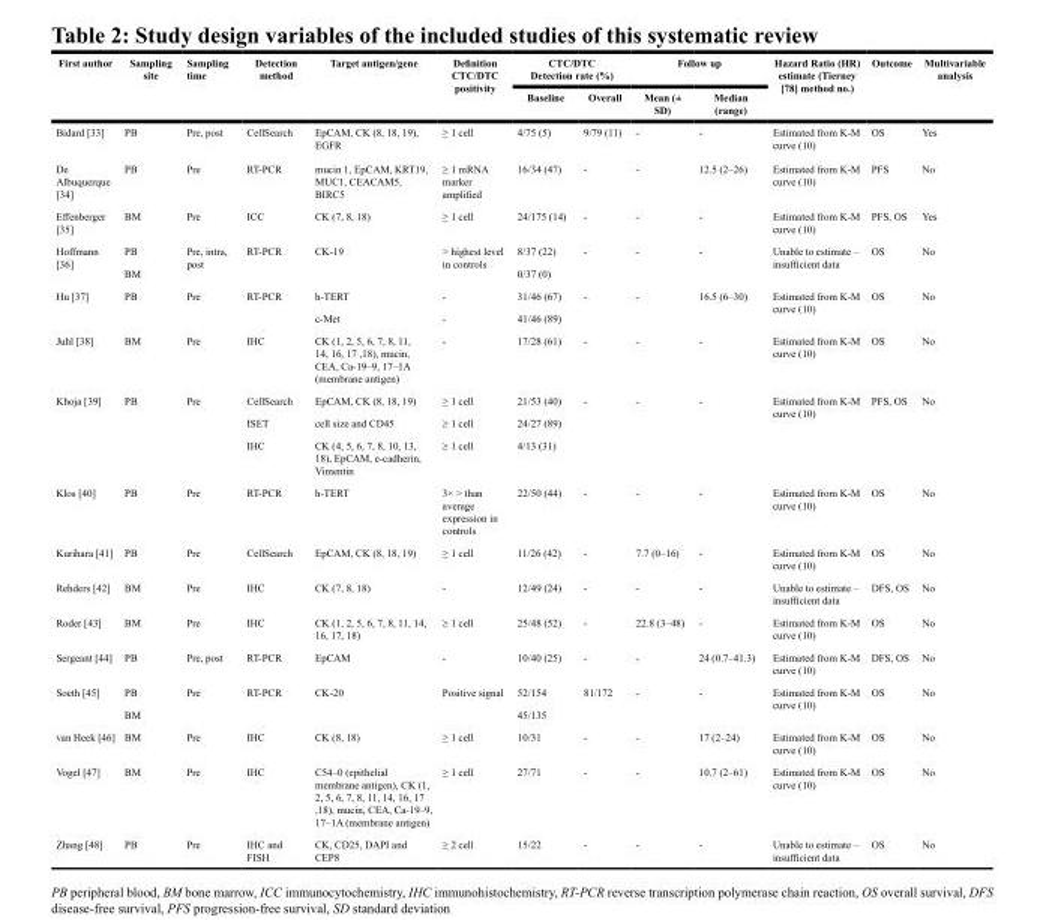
<table><thead><tr><td rowspan="2">First author</td><td rowspan="2">Sampling site</td><td rowspan="2">Sampling time</td><td rowspan="2">Detection method</td><td rowspan="2">Target antigen/gene</td><td rowspan="2">Definition CTC/DTC positivity</td><td colspan="2">CTC/DTC Detection rate (%)</td><td colspan="2">Follow up</td><td rowspan="2">Hazard Ratio (HR) estimate (Tierney [78] method no.)</td><td rowspan="2">Outcome</td><td rowspan="2">Multivariable analysis</td></tr><tr><td>Baseline</td><td>Overall</td><td>Mean (± SD)</td><td>Median (range)</td></tr></thead><tbody><tr><td>Bidard [33]</td><td>PB</td><td>Pre, post</td><td>CellSearch</td><td>EpCAM, CK (8, 18, 19), EGFR</td><td>≥ 1 cell</td><td>4/75 (5)</td><td>9/79 (11)</td><td>-</td><td>-</td><td>Estimated from K-M curve (10)</td><td>OS</td><td>Yes</td></tr><tr><td>De Albuquerque [34]</td><td>PB</td><td>Pre</td><td>RT-PCR</td><td>mucin 1, EpCAM, KRT19, MUC1, CEACAM5, BIRC5</td><td>≥ 1 mRNA marker amplified</td><td>16/34 (47)</td><td>-</td><td>-</td><td>12.5 (2–26)</td><td>Estimated from K-M curve (10)</td><td>PFS</td><td>No</td></tr><tr><td>Effenberger [35]</td><td>BM</td><td>Pre</td><td>ICC</td><td>CK (7, 8, 18)</td><td>≥ 1 cell</td><td>24/175 (14)</td><td>-</td><td>-</td><td>-</td><td>Estimated from K-M curve (10)</td><td>PFS, OS</td><td>Yes</td></tr><tr><td rowspan="2">Hoffmann [36]</td><td>PB</td><td rowspan="2">Pre, intra, post</td><td rowspan="2">RT-PCR</td><td rowspan="2">CK-19</td><td rowspan="2">&gt; highest level in controls</td><td>8/37 (22)</td><td rowspan="2">-</td><td rowspan="2">-</td><td rowspan="2">-</td><td rowspan="2">Unable to estimate – insufficient data</td><td rowspan="2">OS</td><td rowspan="2">No</td></tr><tr><td>BM</td><td>0/37 (0)</td></tr><tr><td rowspan="2">Hu [37]</td><td rowspan="2">PB</td><td rowspan="2">Pre</td><td rowspan="2">RT-PCR</td><td>h-TERT</td><td>-</td><td>31/46 (67)</td><td rowspan="2">-</td><td rowspan="2">-</td><td rowspan="2">16.5 (6–30)</td><td rowspan="2">Estimated from K-M curve (10)</td><td rowspan="2">OS</td><td rowspan="2">No</td></tr><tr><td>c-Met</td><td>-</td><td>41/46 (89)</td></tr><tr><td>Juhl [38]</td><td>BM</td><td>Pre</td><td>IHC</td><td>CK (1, 2, 5, 6, 7, 8, 11, 14, 16, 17 ,18), mucin, CEA, Ca-19–9, 17–1A (membrane antigen)</td><td>-</td><td>17/28 (61)</td><td>-</td><td>-</td><td>-</td><td>Estimated from K-M curve (10)</td><td>OS</td><td>No</td></tr><tr><td rowspan="3">Khoja [39]</td><td rowspan="3">PB</td><td rowspan="3">Pre</td><td>CellSearch</td><td>EpCAM, CK (8, 18, 19)</td><td>≥ 1 cell</td><td>21/53 (40)</td><td rowspan="3">-</td><td rowspan="3">-</td><td rowspan="3">-</td><td rowspan="3">Estimated from K-M curve (10)</td><td rowspan="3">PFS, OS</td><td rowspan="3">No</td></tr><tr><td>ISET</td><td>cell size and CD45</td><td>≥ 1 cell</td><td>24/27 (89)</td></tr><tr><td>IHC</td><td>CK (4, 5, 6, 7, 8, 10, 13, 18), EpCAM, e-cadherin, Vimentin</td><td>≥ 1 cell</td><td>4/13 (31)</td></tr><tr><td>Klos [40]</td><td>PB</td><td>Pre</td><td>RT-PCR</td><td>h-TERT</td><td>3× &gt; than average expression in controls</td><td>22/50 (44)</td><td>-</td><td>-</td><td>-</td><td>Estimated from K-M curve (10)</td><td>OS</td><td>No</td></tr><tr><td>Kurihara [41]</td><td>PB</td><td>Pre</td><td>CellSearch</td><td>EpCAM, CK (8, 18, 19)</td><td>≥ 1 cell</td><td>11/26 (42)</td><td>-</td><td>7.7 (0–16)</td><td>-</td><td>Estimated from K-M curve (10)</td><td>OS</td><td>No</td></tr><tr><td>Rehders [42]</td><td>BM</td><td>Pre</td><td>IHC</td><td>CK (7, 8, 18)</td><td>-</td><td>12/49 (24)</td><td>-</td><td>-</td><td>-</td><td>Unable to estimate – insufficient data</td><td>DFS, OS</td><td>No</td></tr><tr><td>Roder [43]</td><td>BM</td><td>Pre</td><td>IHC</td><td>CK (1, 2, 5, 6, 7, 8, 11, 14, 16, 17, 18)</td><td>≥ 1 cell</td><td>25/48 (52)</td><td>-</td><td>22.8 (3–48)</td><td>-</td><td>Estimated from K-M curve (10)</td><td>OS</td><td>No</td></tr><tr><td>Sergeant [44]</td><td>PB</td><td>Pre, post</td><td>RT-PCR</td><td>EpCAM</td><td>-</td><td>10/40 (25)</td><td>-</td><td>-</td><td>24 (0.7–41.3)</td><td>Estimated from K-M curve (10)</td><td>DFS, OS</td><td>No</td></tr><tr><td rowspan="2">Soeth [45]</td><td>PB</td><td rowspan="2">Pre</td><td rowspan="2">RT-PCR</td><td rowspan="2">CK-20</td><td rowspan="2">Positive signal</td><td>52/154</td><td rowspan="2">81/172</td><td rowspan="2">-</td><td rowspan="2">-</td><td rowspan="2">Estimated from K-M curve (10)</td><td rowspan="2">OS</td><td rowspan="2">No</td></tr><tr><td>BM</td><td>45/135</td></tr><tr><td>van Heek [46]</td><td>BM</td><td>Pre</td><td>IHC</td><td>CK (8, 18)</td><td>≥ 1 cell</td><td>10/31</td><td>-</td><td>-</td><td>17 (2–24)</td><td>Estimated from K-M curve (10)</td><td>OS</td><td>No</td></tr><tr><td>Vogel [47]</td><td>BM</td><td>Pre</td><td>IHC</td><td>C54–0 (epithelial membrane antigen), CK (1, 2, 5, 6, 7, 8, 11, 14, 16, 17 ,18), mucin, CEA, Ca-19–9, 17–1A (membrane antigen)</td><td>≥ 1 cell</td><td>27/71</td><td>-</td><td>-</td><td>10.7 (2–61)</td><td>Estimated from K-M curve (10)</td><td>OS</td><td>No</td></tr><tr><td>Zhang [48]</td><td>PB</td><td>Pre</td><td>IHC and FISH</td><td>CK, CD25, DAPI and CEP8</td><td>≥ 2 cell</td><td>15/22</td><td>-</td><td>-</td><td>-</td><td>Unable to estimate – insufficient data</td><td>OS</td><td>No</td></tr></tbody></table>